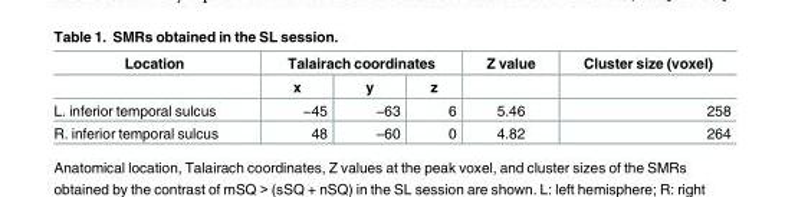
<table><thead><tr><td rowspan="2">Location</td><td colspan="3">Talairach coordinates</td><td rowspan="2">Z value</td><td rowspan="2">Cluster size (voxel)</td></tr><tr><td>x</td><td>y</td><td>z</td></tr></thead><tbody><tr><td>L. inferior temporal sulcus</td><td>−45</td><td>−63</td><td>6</td><td>5.46</td><td>258</td></tr><tr><td>R. inferior temporal sulcus</td><td>48</td><td>−60</td><td>0</td><td>4.82</td><td>264</td></tr></tbody></table>